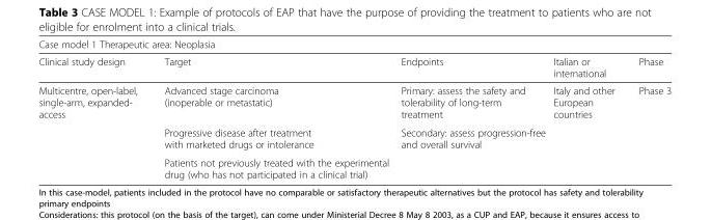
<table><thead><tr><td colspan="5">Case model 1 Therapeutic area: Neoplasia</td></tr><tr><td>Clinical study design</td><td>Target</td><td>Endpoints</td><td>Italian or international</td><td>Phase</td></tr></thead><tbody><tr><td rowspan="3">Multicentre, open-label, single-arm, expanded- access</td><td>Advanced stage carcinoma (inoperable or metastatic)</td><td>Primary: assess the safety and tolerability of long-term treatment</td><td rowspan="3">Italy and other European countries</td><td rowspan="3">Phase 3</td></tr><tr><td>Progressive disease after treatment with marketed drugs or intolerance</td><td rowspan="2">Secondary: assess progression-free and overall survival</td></tr><tr><td>Patients not previously treated with the experimental drug (who has not participated in a clinical trial)</td></tr></tbody></table>